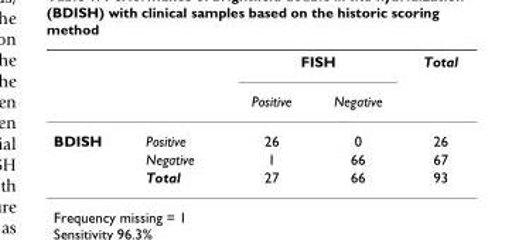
<table><thead><tr><td rowspan="2"></td><td rowspan="2"></td><td colspan="2">FISH</td><td rowspan="2">Total</td></tr><tr><td>Positive</td><td>Negative</td></tr></thead><tbody><tr><td rowspan="3">BDISH</td><td>Positive</td><td>26</td><td>0</td><td>26</td></tr><tr><td>Negative</td><td>1</td><td>66</td><td>67</td></tr><tr><td>Total</td><td>27</td><td>66</td><td>93</td></tr></tbody></table>